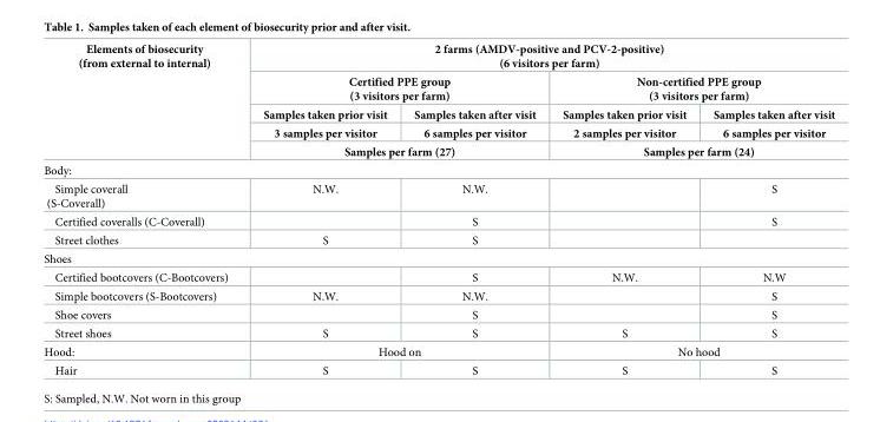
<table><thead><tr><td rowspan="5">Elements of biosecurity (from external to internal)</td><td colspan="4">2 farms (AMDV-positive and PCV-2-positive) (6 visitors per farm)</td></tr><tr><td colspan="2">Certified PPE group (3 visitors per farm)</td><td colspan="2">Non-certified PPE group (3 visitors per farm)</td></tr><tr><td rowspan="2">Samples taken prior visit 3 samples per visitor</td><td rowspan="2">Samples taken after visit 6 samples per visitor</td><td rowspan="2">Samples taken prior visit 2 samples per visitor</td><td rowspan="2">Samples taken after visit 6 samples per visitor</td></tr><tr></tr><tr><td colspan="2">Samples per farm (27)</td><td colspan="2">Samples per farm (24)</td></tr></thead><tbody><tr><td colspan="5">Body:</td></tr><tr><td>Simple coverall (S-Coverall)</td><td>N.W.</td><td>N.W.</td><td></td><td>S</td></tr><tr><td>Certified coveralls (C-Coverall)</td><td></td><td>S</td><td></td><td>S</td></tr><tr><td>Street clothes</td><td>S</td><td>S</td><td></td><td></td></tr><tr><td colspan="5">Shoes</td></tr><tr><td>Certified bootcovers (C-Bootcovers)</td><td></td><td>S</td><td>N.W.</td><td>N.W</td></tr><tr><td>Simple bootcovers (S-Bootcovers)</td><td>N.W.</td><td>N.W.</td><td></td><td>S</td></tr><tr><td>Shoe covers</td><td></td><td>S</td><td></td><td>S</td></tr><tr><td>Street shoes</td><td>S</td><td>S</td><td>S</td><td>S</td></tr><tr><td>Hood:</td><td colspan="2">Hood on</td><td colspan="2">No hood</td></tr><tr><td>Hair</td><td>S</td><td>S</td><td>S</td><td>S</td></tr></tbody></table>